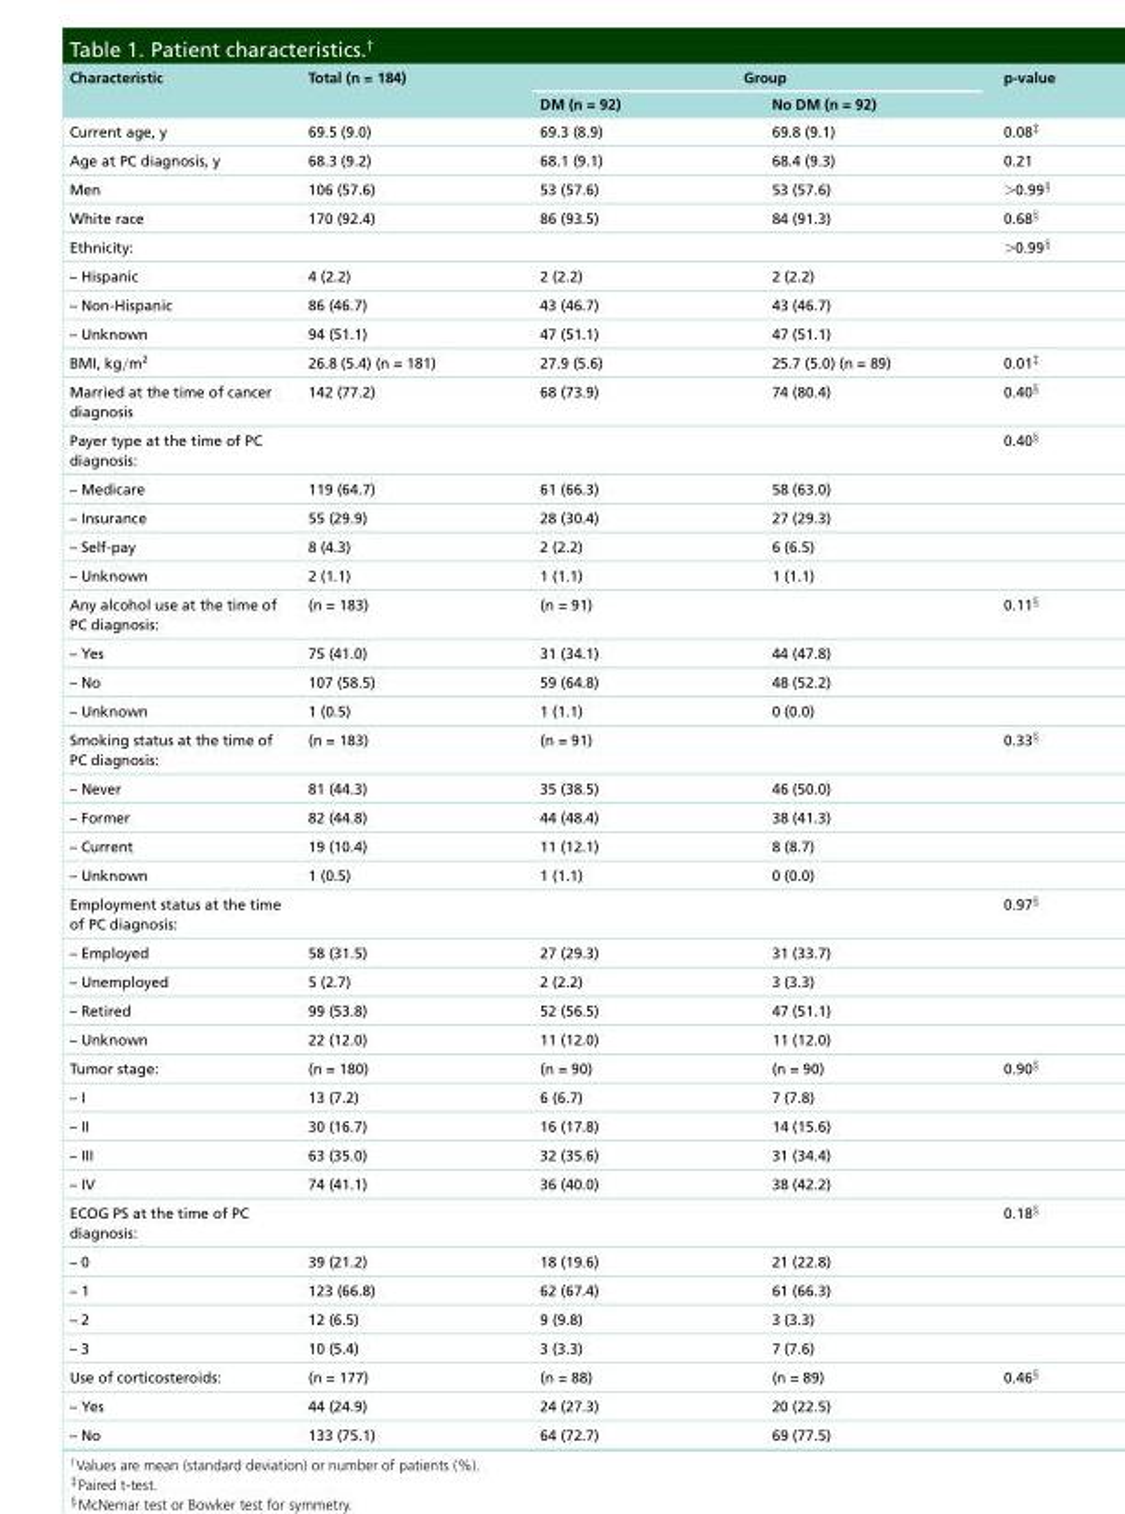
<table><thead><tr><td rowspan="2">Characteristic</td><td rowspan="2">Total (n = 184)</td><td colspan="2">Group</td><td rowspan="2">p-value</td></tr><tr><td>DM (n = 92)</td><td>No DM (n = 92)</td></tr></thead><tbody><tr><td>Current age, y</td><td>69.5 (9.0)</td><td>69.3 (8.9)</td><td>69.8 (9.1)</td><td>0.08<sup>‡</sup></td></tr><tr><td>Age at PC diagnosis, y</td><td>68.3 (9.2)</td><td>68.1 (9.1)</td><td>68.4 (9.3)</td><td>0.21</td></tr><tr><td>Men</td><td>106 (57.6)</td><td>53 (57.6)</td><td>53 (57.6)</td><td>&gt;0.99<sup>§</sup></td></tr><tr><td>White race</td><td>170 (92.4)</td><td>86 (93.5)</td><td>84 (91.3)</td><td>0.68<sup>§</sup></td></tr><tr><td>Ethnicity:</td><td></td><td></td><td></td><td>&gt;0.99<sup>§</sup></td></tr><tr><td>– Hispanic</td><td>4 (2.2)</td><td>2 (2.2)</td><td>2 (2.2)</td><td></td></tr><tr><td>– Non-Hispanic</td><td>86 (46.7)</td><td>43 (46.7)</td><td>43 (46.7)</td><td></td></tr><tr><td>– Unknown</td><td>94 (51.1)</td><td>47 (51.1)</td><td>47 (51.1)</td><td></td></tr><tr><td>BMI, kg/m<sup>2</sup></td><td>26.8 (5.4) (n = 181)</td><td>27.9 (5.6)</td><td>25.7 (5.0) (n = 89)</td><td>0.01<sup>‡</sup></td></tr><tr><td>Married at the time of cancer diagnosis</td><td>142 (77.2)</td><td>68 (73.9)</td><td>74 (80.4)</td><td>0.40<sup>§</sup></td></tr><tr><td>Payer type at the time of PC diagnosis:</td><td></td><td></td><td></td><td>0.40<sup>§</sup></td></tr><tr><td>– Medicare</td><td>119 (64.7)</td><td>61 (66.3)</td><td>58 (63.0)</td><td></td></tr><tr><td>– Insurance</td><td>55 (29.9)</td><td>28 (30.4)</td><td>27 (29.3)</td><td></td></tr><tr><td>– Self-pay</td><td>8 (4.3)</td><td>2 (2.2)</td><td>6 (6.5)</td><td></td></tr><tr><td>– Unknown</td><td>2 (1.1)</td><td>1 (1.1)</td><td>1 (1.1)</td><td></td></tr><tr><td>Any alcohol use at the time of PC diagnosis:</td><td>(n = 183)</td><td>(n = 91)</td><td></td><td>0.11<sup>§</sup></td></tr><tr><td>– Yes</td><td>75 (41.0)</td><td>31 (34.1)</td><td>44 (47.8)</td><td></td></tr><tr><td>– No</td><td>107 (58.5)</td><td>59 (64.8)</td><td>48 (52.2)</td><td></td></tr><tr><td>– Unknown</td><td>1 (0.5)</td><td>1 (1.1)</td><td>0 (0.0)</td><td></td></tr><tr><td>Smoking status at the time of PC diagnosis:</td><td>(n = 183)</td><td>(n = 91)</td><td></td><td>0.33<sup>§</sup></td></tr><tr><td>– Never</td><td>81 (44.3)</td><td>35 (38.5)</td><td>46 (50.0)</td><td></td></tr><tr><td>– Former</td><td>82 (44.8)</td><td>44 (48.4)</td><td>38 (41.3)</td><td></td></tr><tr><td>– Current</td><td>19 (10.4)</td><td>11 (12.1)</td><td>8 (8.7)</td><td></td></tr><tr><td>– Unknown</td><td>1 (0.5)</td><td>1 (1.1)</td><td>0 (0.0)</td><td></td></tr><tr><td>Employment status at the time of PC diagnosis:</td><td></td><td></td><td></td><td>0.97<sup>§</sup></td></tr><tr><td>– Employed</td><td>58 (31.5)</td><td>27 (29.3)</td><td>31 (33.7)</td><td></td></tr><tr><td>– Unemployed</td><td>5 (2.7)</td><td>2 (2.2)</td><td>3 (3.3)</td><td></td></tr><tr><td>– Retired</td><td>99 (53.8)</td><td>52 (56.5)</td><td>47 (51.1)</td><td></td></tr><tr><td>– Unknown</td><td>22 (12.0)</td><td>11 (12.0)</td><td>11 (12.0)</td><td></td></tr><tr><td>Tumor stage:</td><td>(n = 180)</td><td>(n = 90)</td><td>(n = 90)</td><td>0.90<sup>§</sup></td></tr><tr><td>– I</td><td>13 (7.2)</td><td>6 (6.7)</td><td>7 (7.8)</td><td></td></tr><tr><td>– II</td><td>30 (16.7)</td><td>16 (17.8)</td><td>14 (15.6)</td><td></td></tr><tr><td>– III</td><td>63 (35.0)</td><td>32 (35.6)</td><td>31 (34.4)</td><td></td></tr><tr><td>– IV</td><td>74 (41.1)</td><td>36 (40.0)</td><td>38 (42.2)</td><td></td></tr><tr><td>ECOG PS at the time of PC diagnosis:</td><td></td><td></td><td></td><td>0.18<sup>§</sup></td></tr><tr><td>– 0</td><td>39 (21.2)</td><td>18 (19.6)</td><td>21 (22.8)</td><td></td></tr><tr><td>– 1</td><td>123 (66.8)</td><td>62 (67.4)</td><td>61 (66.3)</td><td></td></tr><tr><td>– 2</td><td>12 (6.5)</td><td>9 (9.8)</td><td>3 (3.3)</td><td></td></tr><tr><td>– 3</td><td>10 (5.4)</td><td>3 (3.3)</td><td>7 (7.6)</td><td></td></tr><tr><td>Use of corticosteroids:</td><td>(n = 177)</td><td>(n = 88)</td><td>(n = 89)</td><td>0.46<sup>§</sup></td></tr><tr><td>– Yes</td><td>44 (24.9)</td><td>24 (27.3)</td><td>20 (22.5)</td><td></td></tr><tr><td>– No</td><td>133 (75.1)</td><td>64 (72.7)</td><td>69 (77.5)</td><td></td></tr></tbody></table>